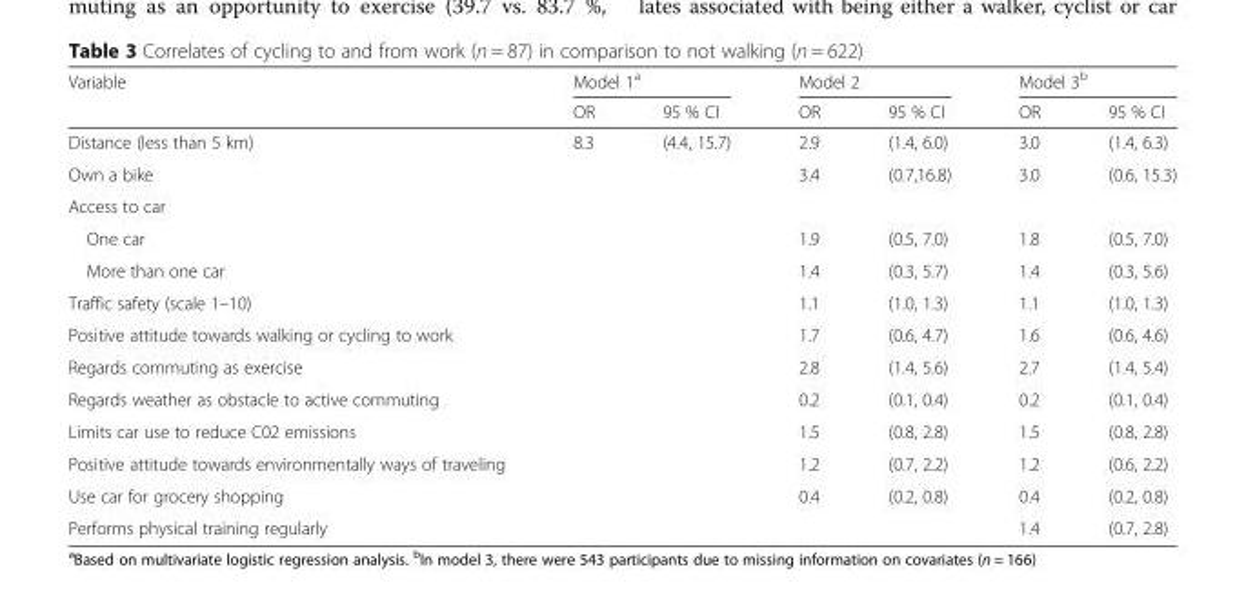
<table><thead><tr><td rowspan="2">Variable</td><td colspan="2">Model 1<sup>a</sup></td><td colspan="2">Model 2</td><td colspan="2">Model 3<sup>b</sup></td></tr><tr><td>OR</td><td>95 % CI</td><td>OR</td><td>95 % CI</td><td>OR</td><td>95 % CI</td></tr></thead><tbody><tr><td>Distance (less than 5 km)</td><td>8.3</td><td>(4.4, 15.7)</td><td>2.9</td><td>(1.4, 6.0)</td><td>3.0</td><td>(1.4, 6.3)</td></tr><tr><td>Own a bike</td><td></td><td></td><td>3.4</td><td>(0.7,16.8)</td><td>3.0</td><td>(0.6, 15.3)</td></tr><tr><td colspan="7">Access to car</td></tr><tr><td>One car</td><td></td><td></td><td>1.9</td><td>(0.5, 7.0)</td><td>1.8</td><td>(0.5, 7.0)</td></tr><tr><td>More than one car</td><td></td><td></td><td>1.4</td><td>(0.3, 5.7)</td><td>1.4</td><td>(0.3, 5.6)</td></tr><tr><td>Traffic safety (scale 1–10)</td><td></td><td></td><td>1.1</td><td>(1.0, 1.3)</td><td>1.1</td><td>(1.0, 1.3)</td></tr><tr><td>Positive attitude towards walking or cycling to work</td><td></td><td></td><td>1.7</td><td>(0.6, 4.7)</td><td>1.6</td><td>(0.6, 4.6)</td></tr><tr><td>Regards commuting as exercise</td><td></td><td></td><td>2.8</td><td>(1.4, 5.6)</td><td>2.7</td><td>(1.4, 5.4)</td></tr><tr><td>Regards weather as obstacle to active commuting</td><td></td><td></td><td>0.2</td><td>(0.1, 0.4)</td><td>0.2</td><td>(0.1, 0.4)</td></tr><tr><td>Limits car use to reduce C02 emissions</td><td></td><td></td><td>1.5</td><td>(0.8, 2.8)</td><td>1.5</td><td>(0.8, 2.8)</td></tr><tr><td>Positive attitude towards environmentally ways of traveling</td><td></td><td></td><td>1.2</td><td>(0.7, 2.2)</td><td>1.2</td><td>(0.6, 2.2)</td></tr><tr><td>Use car for grocery shopping</td><td></td><td></td><td>0.4</td><td>(0.2, 0.8)</td><td>0.4</td><td>(0.2, 0.8)</td></tr><tr><td>Performs physical training regularly</td><td></td><td></td><td></td><td></td><td>1.4</td><td>(0.7, 2.8)</td></tr></tbody></table>